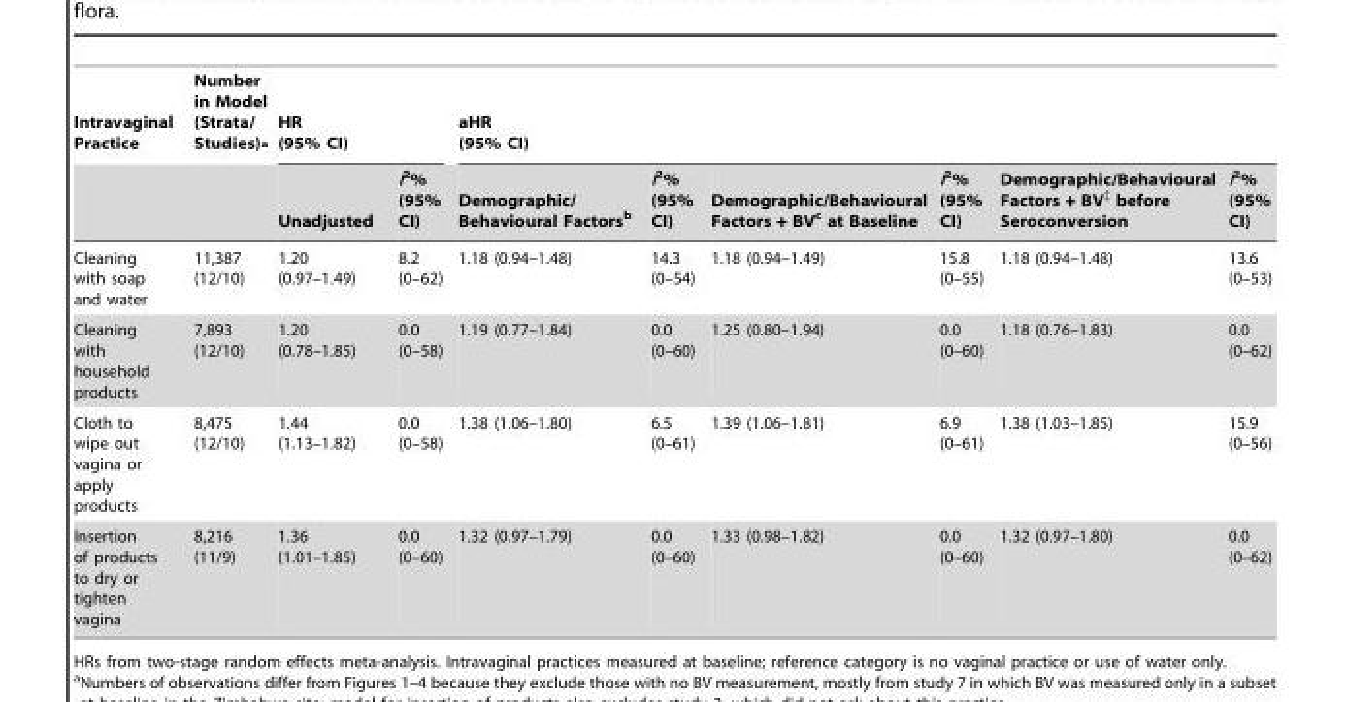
<table><thead><tr><td rowspan="2">Intravaginal Practice</td><td rowspan="2">Number in Model (Strata/ Studies)<sup>a</sup></td><td colspan="2">HR (95% CI)</td><td colspan="6">aHR (95% CI)</td></tr><tr><td>Unadjusted</td><td>I<sup>2</sup>% (95% CI)</td><td>Demographic/ Behavioural Factors<sup>b</sup></td><td>I<sup>2</sup>% (95% CI)</td><td>Demographic/Behavioural Factors + BV<sup>c</sup> at Baseline</td><td>I<sup>2</sup>% (95% CI)</td><td>Demographic/Behavioural Factors + BV<sup>‡</sup> before Seroconversion</td><td>I<sup>2</sup>% (95% CI)</td></tr></thead><tbody><tr><td>Cleaning with soap and water</td><td>11,387 (12/10)</td><td>1.20 (0.97–1.49)</td><td>8.2 (0–62)</td><td>1.18 (0.94–1.48)</td><td>14.3 (0–54)</td><td>1.18 (0.94–1.49)</td><td>15.8 (0–55)</td><td>1.18 (0.94–1.48)</td><td>13.6 (0–53)</td></tr><tr><td>Cleaning with household products</td><td>7,893 (12/10)</td><td>1.20 (0.78–1.85)</td><td>0.0 (0–58)</td><td>1.19 (0.77–1.84)</td><td>0.0 (0–60)</td><td>1.25 (0.80–1.94)</td><td>0.0 (0–60)</td><td>1.18 (0.76–1.83)</td><td>0.0 (0–62)</td></tr><tr><td>Cloth to wipe out vagina or apply products</td><td>8,475 (12/10)</td><td>1.44 (1.13–1.82)</td><td>0.0 (0–58)</td><td>1.38 (1.06–1.80)</td><td>6.5 (0–61)</td><td>1.39 (1.06–1.81)</td><td>6.9 (0–61)</td><td>1.38 (1.03–1.85)</td><td>15.9 (0–56)</td></tr><tr><td>Insertion of products to dry or tighten vagina</td><td>8,216 (11/9)</td><td>1.36 (1.01–1.85)</td><td>0.0 (0–60)</td><td>1.32 (0.97–1.79)</td><td>0.0 (0–60)</td><td>1.33 (0.98–1.82)</td><td>0.0 (0–60)</td><td>1.32 (0.97–1.80)</td><td>0.0 (0–62)</td></tr></tbody></table>